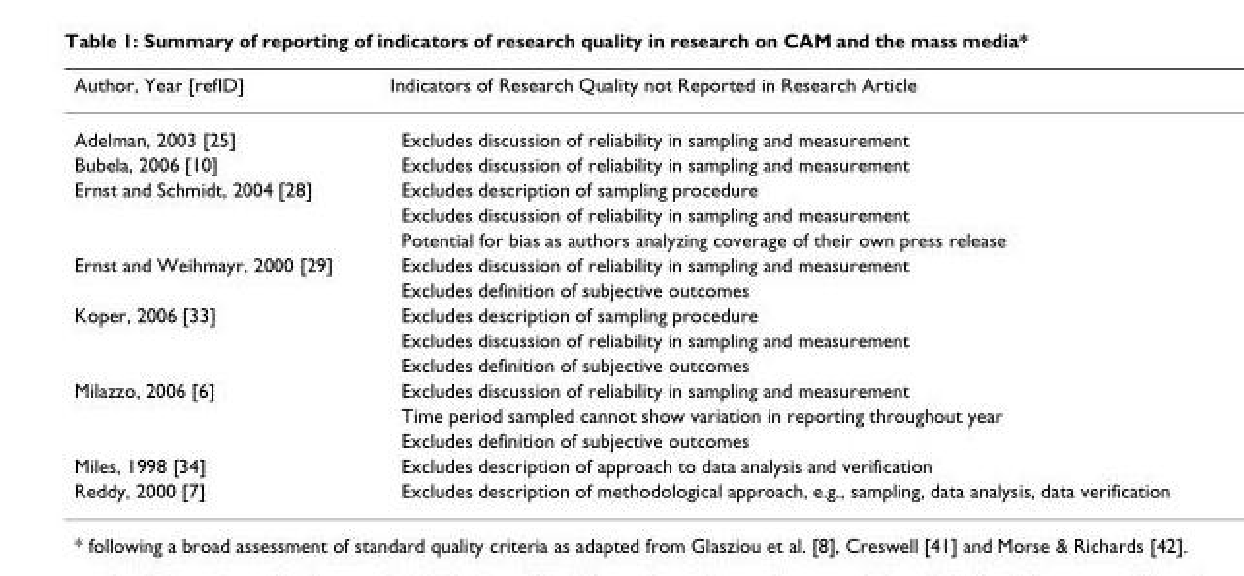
<table><thead><tr><td>Author, Year [refID]</td><td>Indicators of Research Quality not Reported in Research Article</td></tr></thead><tbody><tr><td>Adelman, 2003 [25]</td><td>Excludes discussion of reliability in sampling and measurement</td></tr><tr><td>Bubela, 2006 [10]</td><td>Excludes discussion of reliability in sampling and measurement</td></tr><tr><td rowspan="3">Ernst and Schmidt, 2004 [28]</td><td>Excludes description of sampling procedure</td></tr><tr><td>Excludes discussion of reliability in sampling and measurement</td></tr><tr><td>Potential for bias as authors analyzing coverage of their own press release</td></tr><tr><td rowspan="2">Ernst and Weihmayr, 2000 [29]</td><td>Excludes discussion of reliability in sampling and measurement</td></tr><tr><td>Excludes definition of subjective outcomes</td></tr><tr><td rowspan="3">Koper, 2006 [33]</td><td>Excludes description of sampling procedure</td></tr><tr><td>Excludes discussion of reliability in sampling and measurement</td></tr><tr><td>Excludes definition of subjective outcomes</td></tr><tr><td rowspan="3">Milazzo, 2006 [6]</td><td>Excludes discussion of reliability in sampling and measurement</td></tr><tr><td>Time period sampled cannot show variation in reporting throughout year</td></tr><tr><td>Excludes definition of subjective outcomes</td></tr><tr><td>Miles, 1998 [34]</td><td>Excludes description of approach to data analysis and verification</td></tr><tr><td>Reddy, 2000 [7]</td><td>Excludes description of methodological approach, e.g., sampling, data analysis, data verification</td></tr></tbody></table>